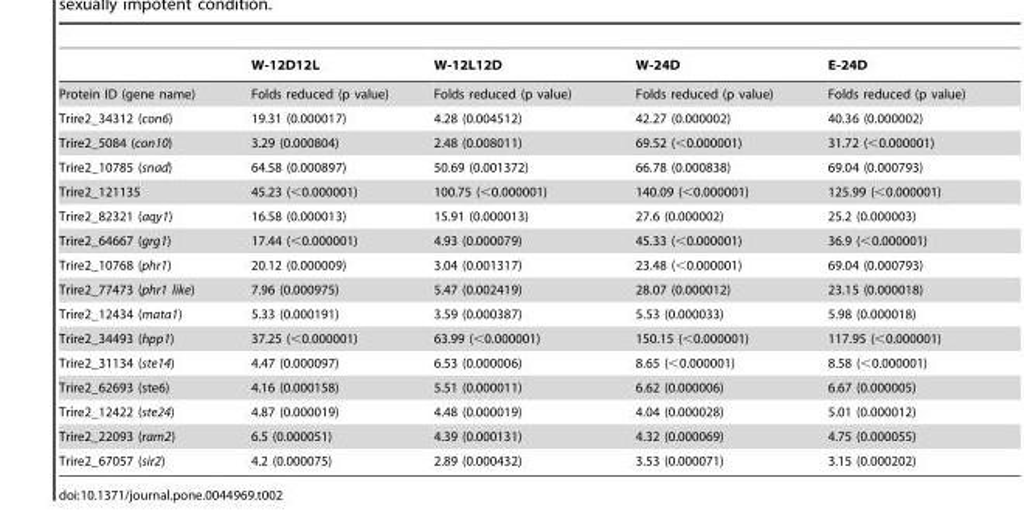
<table><thead><tr><td></td><td>W-12D12L</td><td>W-12L12D</td><td>W-24D</td><td>E-24D</td></tr></thead><tbody><tr><td>Protein ID (gene name)</td><td>Folds reduced (p value)</td><td>Folds reduced (p value)</td><td>Folds reduced (p value)</td><td>Folds reduced (p value)</td></tr><tr><td>Trire2_34312 (con6)</td><td>19.31 (0.000017)</td><td>4.28 (0.004512)</td><td>42.27 (0.000002)</td><td>40.36 (0.000002)</td></tr><tr><td>Trire2_5084 (con10)</td><td>3.29 (0.000804)</td><td>2.48 (0.008011)</td><td>69.52 (&lt;0.000001)</td><td>31.72 (&lt;0.000001)</td></tr><tr><td>Trire2_10785 (snad)</td><td>64.58 (0.000897)</td><td>50.69 (0.001372)</td><td>66.78 (0.000838)</td><td>69.04 (0.000793)</td></tr><tr><td>Trire2_121135</td><td>45.23 (&lt;0.000001)</td><td>100.75 (&lt;0.000001)</td><td>140.09 (&lt;0.000001)</td><td>125.99 (&lt;0.000001)</td></tr><tr><td>Trire2_82321 (aqy1)</td><td>16.58 (0.000013)</td><td>15.91 (0.000013)</td><td>27.6 (0.000002)</td><td>25.2 (0.000003)</td></tr><tr><td>Trire2_64667 (grg1)</td><td>17.44 (&lt;0.000001)</td><td>4.93 (0.000079)</td><td>45.33 (&lt;0.000001)</td><td>36.9 (&lt;0.000001)</td></tr><tr><td>Trire2_10768 (phr1)</td><td>20.12 (0.000009)</td><td>3.04 (0.001317)</td><td>23.48 (&lt;0.000001)</td><td>69.04 (0.000793)</td></tr><tr><td>Trire2_77473 (phr1 like)</td><td>7.96 (0.000975)</td><td>5.47 (0.002419)</td><td>28.07 (0.000012)</td><td>23.15 (0.000018)</td></tr><tr><td>Trire2_12434 (mata1)</td><td>5.33 (0.000191)</td><td>3.59 (0.000387)</td><td>5.53 (0.000033)</td><td>5.98 (0.000018)</td></tr><tr><td>Trire2_34493 (hpp1)</td><td>37.25 (&lt;0.000001)</td><td>63.99 (&lt;0.000001)</td><td>150.15 (&lt;0.000001)</td><td>117.95 (&lt;0.000001)</td></tr><tr><td>Trire2_31134 (ste14)</td><td>4.47 (0.000097)</td><td>6.53 (0.000006)</td><td>8.65 (&lt;0.000001)</td><td>8.58 (&lt;0.000001)</td></tr><tr><td>Trire2_62693 (ste6)</td><td>4.16 (0.000158)</td><td>5.51 (0.000011)</td><td>6.62 (0.000006)</td><td>6.67 (0.000005)</td></tr><tr><td>Trire2_12422 (ste24)</td><td>4.87 (0.000019)</td><td>4.48 (0.000019)</td><td>4.04 (0.000028)</td><td>5.01 (0.000012)</td></tr><tr><td>Trire2_22093 (ram2)</td><td>6.5 (0.000051)</td><td>4.39 (0.000131)</td><td>4.32 (0.000069)</td><td>4.75 (0.000055)</td></tr><tr><td>Trire2_67057 (sir2)</td><td>4.2 (0.000075)</td><td>2.89 (0.000432)</td><td>3.53 (0.000071)</td><td>3.15 (0.000202)</td></tr></tbody></table>